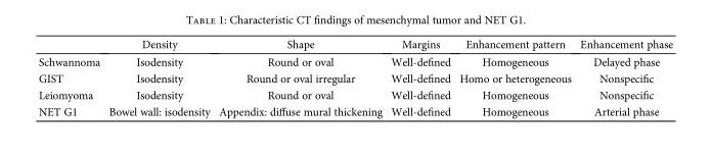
<table><thead><tr><td></td><td>Density</td><td>Shape</td><td>Margins</td><td>Enhancement pattern</td><td>Enhancement phase</td></tr></thead><tbody><tr><td>Schwannoma</td><td>Isodensity</td><td>Round or oval</td><td>Well-defined</td><td>Homogeneous</td><td>Delayed phase</td></tr><tr><td>GIST</td><td>Isodensity</td><td>Round or oval irregular</td><td>Well-defined</td><td>Homo or heterogeneous</td><td>Nonspecific</td></tr><tr><td>Leiomyoma</td><td>Isodensity</td><td>Round or oval</td><td>Well-defined</td><td>Homogeneous</td><td>Nonspecific</td></tr><tr><td>NET G1</td><td>Bowel wall: isodensity</td><td>Appendix: diffuse mural thickening</td><td>Well-defined</td><td>Homogeneous</td><td>Arterial phase</td></tr></tbody></table>